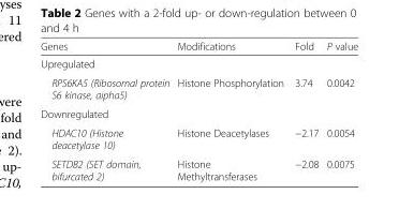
<table><thead><tr><td>Genes</td><td>Modifications</td><td>Fold</td><td>P value</td></tr></thead><tbody><tr><td colspan="4">Upregulated</td></tr><tr><td>RPS6KA5 (Ribosomal protein S6 kinase, aipha5)</td><td>Histone Phosphorylation</td><td>3.74</td><td>0.0042</td></tr><tr><td colspan="4">Downregulated</td></tr><tr><td>HDAC10 (Histone deacetylase 10)</td><td>Histone Deacetylases</td><td>−2.17</td><td>0.0054</td></tr><tr><td>SETDB2 (SET domain, bifurcated 2)</td><td>Histone Methyltransferases</td><td>−2.08</td><td>0.0075</td></tr></tbody></table>